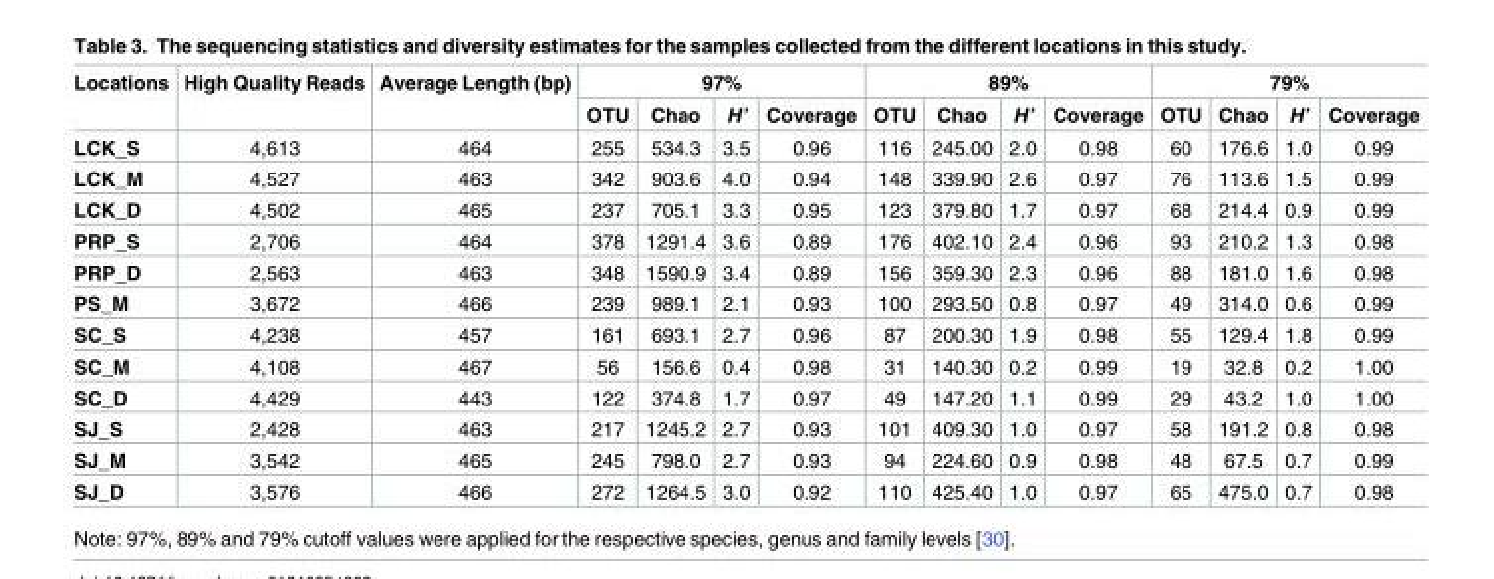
<table><thead><tr><td rowspan="2">Locations</td><td rowspan="2">High Quality Reads</td><td rowspan="2">Average Length (bp)</td><td colspan="4">97%</td><td colspan="4">89%</td><td colspan="4">79%</td></tr><tr><td>OTU</td><td>Chao</td><td>H’</td><td>Coverage</td><td>OTU</td><td>Chao</td><td>H’</td><td>Coverage</td><td>OTU</td><td>Chao</td><td>H’</td><td>Coverage</td></tr></thead><tbody><tr><td>LCK_S</td><td>4,613</td><td>464</td><td>255</td><td>534.3</td><td>3.5</td><td>0.96</td><td>116</td><td>245.00</td><td>2.0</td><td>0.98</td><td>60</td><td>176.6</td><td>1.0</td><td>0.99</td></tr><tr><td>LCK_M</td><td>4,527</td><td>463</td><td>342</td><td>903.6</td><td>4.0</td><td>0.94</td><td>148</td><td>339.90</td><td>2.6</td><td>0.97</td><td>76</td><td>113.6</td><td>1.5</td><td>0.99</td></tr><tr><td>LCK_D</td><td>4,502</td><td>465</td><td>237</td><td>705.1</td><td>3.3</td><td>0.95</td><td>123</td><td>379.80</td><td>1.7</td><td>0.97</td><td>68</td><td>214.4</td><td>0.9</td><td>0.99</td></tr><tr><td>PRP_S</td><td>2,706</td><td>464</td><td>378</td><td>1291.4</td><td>3.6</td><td>0.89</td><td>176</td><td>402.10</td><td>2.4</td><td>0.96</td><td>93</td><td>210.2</td><td>1.3</td><td>0.98</td></tr><tr><td>PRP_D</td><td>2,563</td><td>463</td><td>348</td><td>1590.9</td><td>3.4</td><td>0.89</td><td>156</td><td>359.30</td><td>2.3</td><td>0.96</td><td>88</td><td>181.0</td><td>1.6</td><td>0.98</td></tr><tr><td>PS_M</td><td>3,672</td><td>466</td><td>239</td><td>989.1</td><td>2.1</td><td>0.93</td><td>100</td><td>293.50</td><td>0.8</td><td>0.97</td><td>49</td><td>314.0</td><td>0.6</td><td>0.99</td></tr><tr><td>SC_S</td><td>4,238</td><td>457</td><td>161</td><td>693.1</td><td>2.7</td><td>0.96</td><td>87</td><td>200.30</td><td>1.9</td><td>0.98</td><td>55</td><td>129.4</td><td>1.8</td><td>0.99</td></tr><tr><td>SC_M</td><td>4,108</td><td>467</td><td>56</td><td>156.6</td><td>0.4</td><td>0.98</td><td>31</td><td>140.30</td><td>0.2</td><td>0.99</td><td>19</td><td>32.8</td><td>0.2</td><td>1.00</td></tr><tr><td>SC_D</td><td>4,429</td><td>443</td><td>122</td><td>374.8</td><td>1.7</td><td>0.97</td><td>49</td><td>147.20</td><td>1.1</td><td>0.99</td><td>29</td><td>43.2</td><td>1.0</td><td>1.00</td></tr><tr><td>SJ_S</td><td>2,428</td><td>463</td><td>217</td><td>1245.2</td><td>2.7</td><td>0.93</td><td>101</td><td>409.30</td><td>1.0</td><td>0.97</td><td>58</td><td>191.2</td><td>0.8</td><td>0.98</td></tr><tr><td>SJ_M</td><td>3,542</td><td>465</td><td>245</td><td>798.0</td><td>2.7</td><td>0.93</td><td>94</td><td>224.60</td><td>0.9</td><td>0.98</td><td>48</td><td>67.5</td><td>0.7</td><td>0.99</td></tr><tr><td>SJ_D</td><td>3,576</td><td>466</td><td>272</td><td>1264.5</td><td>3.0</td><td>0.92</td><td>110</td><td>425.40</td><td>1.0</td><td>0.97</td><td>65</td><td>475.0</td><td>0.7</td><td>0.98</td></tr></tbody></table>